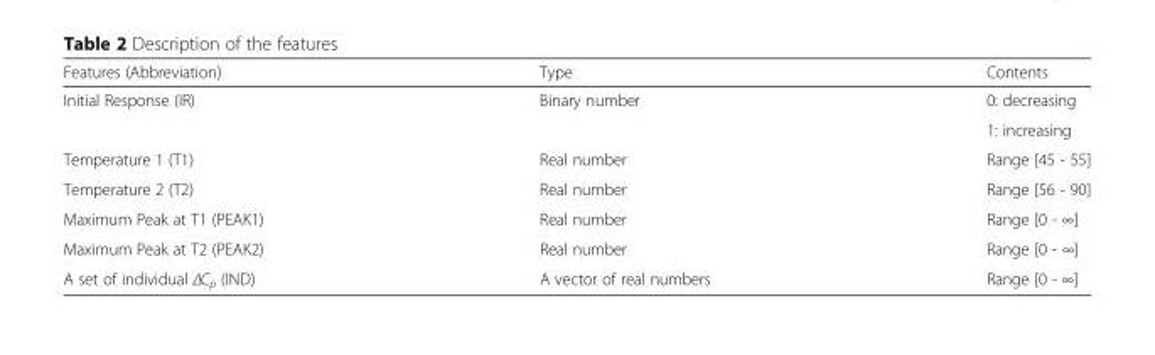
<table><thead><tr><td>Features (Abbreviation)</td><td>Type</td><td>Contents</td></tr></thead><tbody><tr><td rowspan="2">Initial Response (IR)</td><td rowspan="2">Binary number</td><td>0: decreasing</td></tr><tr><td>1: increasing</td></tr><tr><td>Temperature 1 (T1)</td><td>Real number</td><td>Range [45 - 55]</td></tr><tr><td>Temperature 2 (T2)</td><td>Real number</td><td>Range [56 - 90]</td></tr><tr><td>Maximum Peak at T1 (PEAK1)</td><td>Real number</td><td>Range [0 - ∞]</td></tr><tr><td>Maximum Peak at T2 (PEAK2)</td><td>Real number</td><td>Range [0 - ∞]</td></tr><tr><td>A set of individual ΔCp (IND)</td><td>A vector of real numbers</td><td>Range [0 - ∞]</td></tr></tbody></table>